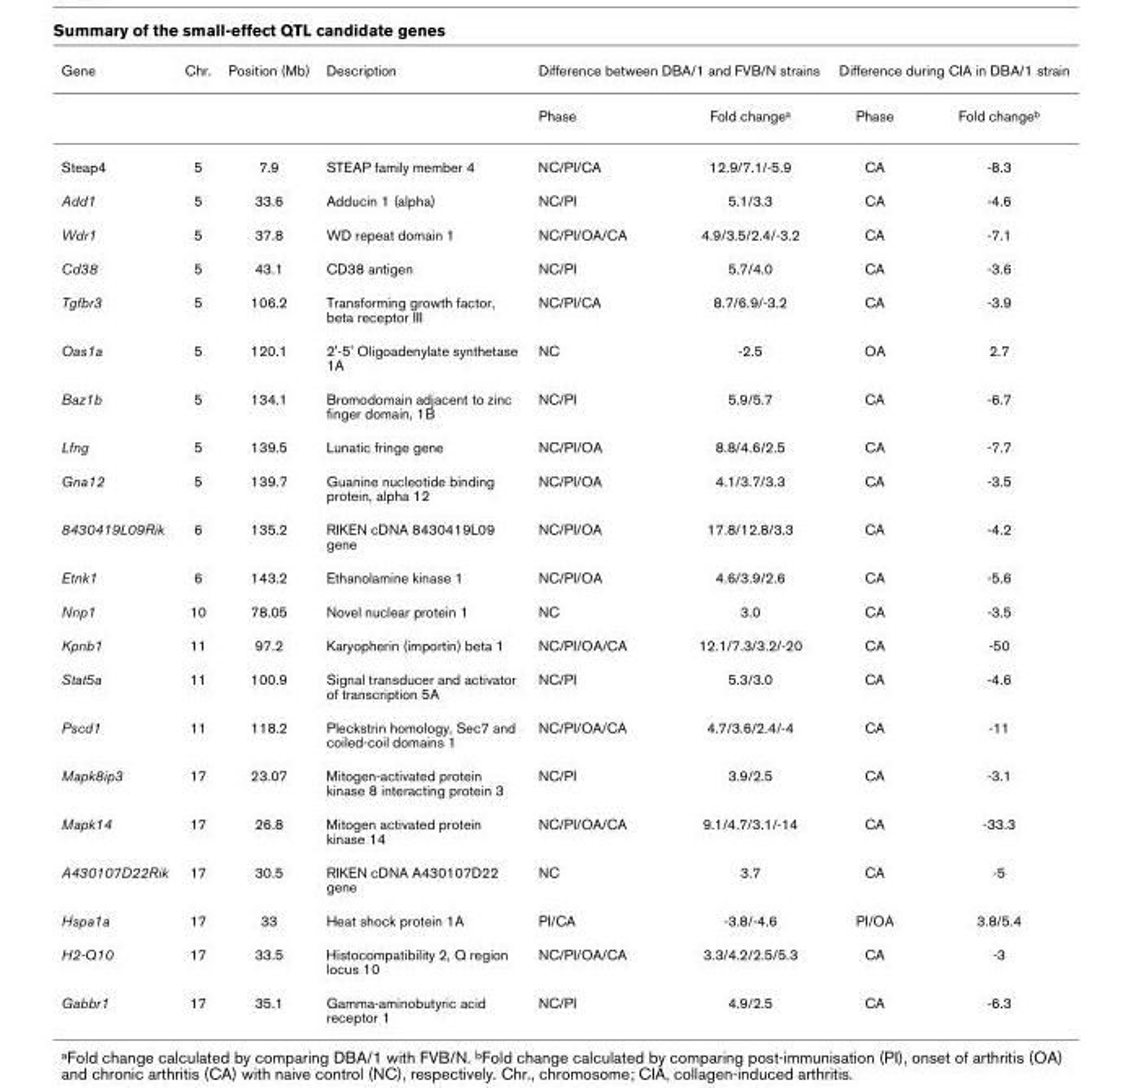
<table><thead><tr><td rowspan="2">Gene</td><td rowspan="2">Chr.</td><td rowspan="2">Position (Mb)</td><td rowspan="2">Description</td><td colspan="2">Difference between DBA/1 and FVB/N strains</td><td colspan="2">Difference during CIA in DBA/1 strain</td></tr><tr><td>Phase</td><td>Fold changea</td><td>Phase</td><td>Fold changeb</td></tr></thead><tbody><tr><td>Steap4</td><td>5</td><td>7.9</td><td>STEAP family member 4</td><td>NC/PI/CA</td><td>12.9/7.1/-5.9</td><td>CA</td><td>-8.3</td></tr><tr><td>Add1</td><td>5</td><td>33.6</td><td>Adducin 1 (alpha)</td><td>NC/PI</td><td>5.1/3.3</td><td>CA</td><td>-4.6</td></tr><tr><td>Wdr1</td><td>5</td><td>37.8</td><td>WD repeat domain 1</td><td>NC/PI/OA/CA</td><td>4.9/3.5/2.4/-3.2</td><td>CA</td><td>-7.1</td></tr><tr><td>Cd38</td><td>5</td><td>43.1</td><td>CD38 antigen</td><td>NC/PI</td><td>5.7/4.0</td><td>CA</td><td>-3.6</td></tr><tr><td>Tgfbr3</td><td>5</td><td>106.2</td><td>Transforming growth factor, beta receptor III</td><td>NC/PI/CA</td><td>8.7/6.9/-3.2</td><td>CA</td><td>-3.9</td></tr><tr><td>Oas1a</td><td>5</td><td>120.1</td><td>2&#x27;-5&#x27; Oligoadenylate synthetase 1A</td><td>NC</td><td>-2.5</td><td>OA</td><td>2.7</td></tr><tr><td>Baz1b</td><td>5</td><td>134.1</td><td>Bromodomain adjacent to zinc finger domain, 1B</td><td>NC/PI</td><td>5.9/5.7</td><td>CA</td><td>-6.7</td></tr><tr><td>Lfng</td><td>5</td><td>139.5</td><td>Lunatic fringe gene</td><td>NC/PI/OA</td><td>8.8/4.6/2.5</td><td>CA</td><td>-7.7</td></tr><tr><td>Gna12</td><td>5</td><td>139.7</td><td>Guanine nucleotide binding protein, alpha 12</td><td>NC/PI/OA</td><td>4.1/3.7/3.3</td><td>CA</td><td>-3.5</td></tr><tr><td>8430419L09Rik</td><td>6</td><td>135.2</td><td>RIKEN cDNA 8430419L09 gene</td><td>NC/PI/OA</td><td>17.8/12.8/3.3</td><td>CA</td><td>-4.2</td></tr><tr><td>Etnk1</td><td>6</td><td>143.2</td><td>Ethanolamine kinase 1</td><td>NC/PI/OA</td><td>4.6/3.9/2.6</td><td>CA</td><td>-5.6</td></tr><tr><td>Nnp1</td><td>10</td><td>78.05</td><td>Novel nuclear protein 1</td><td>NC</td><td>3.0</td><td>CA</td><td>-3.5</td></tr><tr><td>Kpnb1</td><td>11</td><td>97.2</td><td>Karyopherin (importin) beta 1</td><td>NC/PI/OA/CA</td><td>12.1/7.3/3.2/-20</td><td>CA</td><td>-50</td></tr><tr><td>Stat5a</td><td>11</td><td>100.9</td><td>Signal transducer and activator of transcription 5A</td><td>NC/PI</td><td>5.3/3.0</td><td>CA</td><td>-4.6</td></tr><tr><td>Pscd1</td><td>11</td><td>118.2</td><td>Pleckstrin homology, Sec7 and coiled-coil domains 1</td><td>NC/PI/OA/CA</td><td>4.7/3.6/2.4/-4</td><td>CA</td><td>-11</td></tr><tr><td>Mapk8ip3</td><td>17</td><td>23.07</td><td>Mitogen-activated protein kinase 8 interacting protein 3</td><td>NC/PI</td><td>3.9/2.5</td><td>CA</td><td>-3.1</td></tr><tr><td>Mapk14</td><td>17</td><td>26.8</td><td>Mitogen activated protein kinase 14</td><td>NC/PI/OA/CA</td><td>9.1/4.7/3.1/-14</td><td>CA</td><td>-33.3</td></tr><tr><td>A430107D22Rik</td><td>17</td><td>30.5</td><td>RIKEN cDNA A430107D22 gene</td><td>NC</td><td>3.7</td><td>CA</td><td>-5</td></tr><tr><td>Hspa1a</td><td>17</td><td>33</td><td>Heat shock protein 1A</td><td>PI/CA</td><td>-3.8/-4.6</td><td>PI/OA</td><td>3.8/5.4</td></tr><tr><td>H2-Q10</td><td>17</td><td>33.5</td><td>Histocompatibility 2, Q region locus 10</td><td>NC/PI/OA/CA</td><td>3.3/4.2/2.5/5.3</td><td>CA</td><td>-3</td></tr><tr><td>Gabbr1</td><td>17</td><td>35.1</td><td>Gamma-aminobutyric acid receptor 1</td><td>NC/PI</td><td>4.9/2.5</td><td>CA</td><td>-6.3</td></tr></tbody></table>